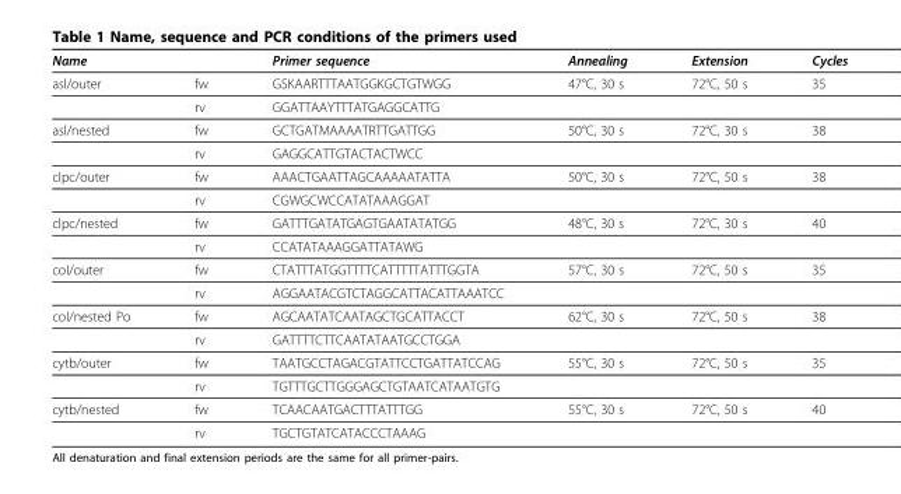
<table><thead><tr><td>Name</td><td></td><td>Primer sequence</td><td>Annealing</td><td>Extension</td><td>Cycles</td></tr></thead><tbody><tr><td rowspan="2">asl/outer</td><td>fw</td><td>GSKAARTTTAATGGKGCTGTWGG</td><td>47°C, 30 s</td><td>72°C, 50 s</td><td>35</td></tr><tr><td>rv</td><td>GGATTAAYTTTATGAGGCATTG</td><td></td><td></td><td></td></tr><tr><td rowspan="2">asl/nested</td><td>fw</td><td>GCTGATMAAAATRTTGATTGG</td><td>50°C, 30 s</td><td>72°C, 30 s</td><td>38</td></tr><tr><td>rv</td><td>GAGGCATTGTACTACTWCC</td><td></td><td></td><td></td></tr><tr><td rowspan="2">clpc/outer</td><td>fw</td><td>AAACTGAATTAGCAAAAATATTA</td><td>50°C, 30 s</td><td>72°C, 50 s</td><td>38</td></tr><tr><td>rv</td><td>CGWGCWCCATATAAAGGAT</td><td></td><td></td><td></td></tr><tr><td rowspan="2">clpc/nested</td><td>fw</td><td>GATTTGATATGAGTGAATATATGG</td><td>48°C, 30 s</td><td>72°C, 30 s</td><td>40</td></tr><tr><td>rv</td><td>CCATATAAAGGATTATAWG</td><td></td><td></td><td></td></tr><tr><td rowspan="2">coI/outer</td><td>fw</td><td>CTATTTATGGTTTTCATTTTTATTTGGTA</td><td>57°C, 30 s</td><td>72°C, 50 s</td><td>35</td></tr><tr><td>rv</td><td>AGGAATACGTCTAGGCATTACATTAAATCC</td><td></td><td></td><td></td></tr><tr><td rowspan="2">coI/nested Po</td><td>fw</td><td>AGCAATATCAATAGCTGCATTACCT</td><td>62°C, 30 s</td><td>72°C, 50 s</td><td>38</td></tr><tr><td>rv</td><td>GATTTTCTTCAATATAATGCCTGGA</td><td></td><td></td><td></td></tr><tr><td rowspan="2">cytb/outer</td><td>fw</td><td>TAATGCCTAGACGTATTCCTGATTATCCAG</td><td>55°C, 30 s</td><td>72°C, 50 s</td><td>35</td></tr><tr><td>rv</td><td>TGTTTGCTTGGGAGCTGTAATCATAATGTG</td><td></td><td></td><td></td></tr><tr><td rowspan="2">cytb/nested</td><td>fw</td><td>TCAACAATGACTTTATTTGG</td><td>55°C, 30 s</td><td>72°C, 50 s</td><td>40</td></tr><tr><td>rv</td><td>TGCTGTATCATACCCTAAAG</td><td></td><td></td><td></td></tr></tbody></table>